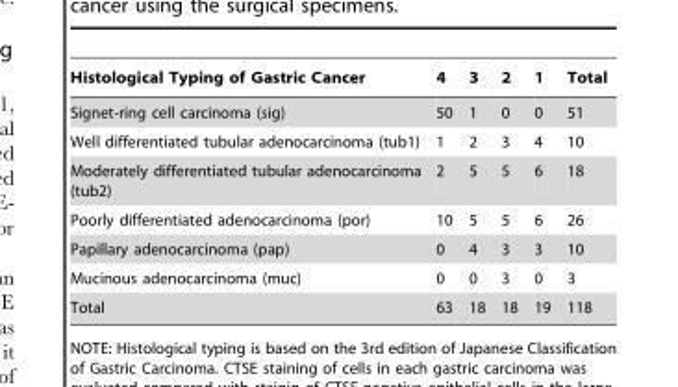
<table><thead><tr><td>Histological Typing of Gastric Cancer</td><td>4</td><td>3</td><td>2</td><td>1</td><td>Total</td></tr></thead><tbody><tr><td>Signet-ring cell carcinoma (sig)</td><td>50</td><td>1</td><td>0</td><td>0</td><td>51</td></tr><tr><td>Well differentiated tubular adenocarcinoma (tub1)</td><td>1</td><td>2</td><td>3</td><td>4</td><td>10</td></tr><tr><td>Moderately differentiated tubular adenocarcinoma (tub2)</td><td>2</td><td>5</td><td>5</td><td>6</td><td>18</td></tr><tr><td>Poorly differentiated adenocarcinoma (por)</td><td>10</td><td>5</td><td>5</td><td>6</td><td>26</td></tr><tr><td>Papillary adenocarcinoma (pap)</td><td>0</td><td>4</td><td>3</td><td>3</td><td>10</td></tr><tr><td>Mucinous adenocarcinoma (muc)</td><td>0</td><td>0</td><td>3</td><td>0</td><td>3</td></tr><tr><td>Total</td><td>63</td><td>18</td><td>18</td><td>19</td><td>118</td></tr></tbody></table>